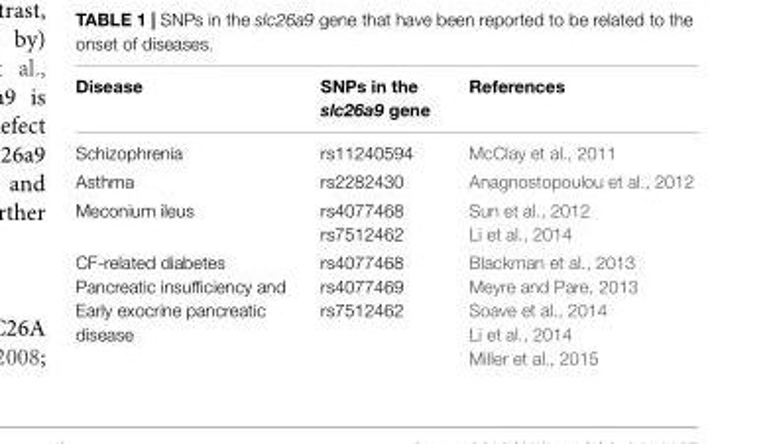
<table><thead><tr><td>Disease</td><td>SNPs in the slc26a9 gene</td><td>References</td></tr></thead><tbody><tr><td>Schizophrenia</td><td>rs11240594</td><td>McClay et al., 2011</td></tr><tr><td>Asthma</td><td>rs2282430</td><td>Anagnostopoulou et al., 2012</td></tr><tr><td>Meconium ileus</td><td>rs4077468 rs7512462</td><td>Sun et al., 2012 Li et al., 2014</td></tr><tr><td>CF-related diabetes Pancreatic insufficiency and Early exocrine pancreatic disease</td><td>rs4077468 rs4077469 rs7512462</td><td>Blackman et al., 2013 Meyre and Pare, 2013 Soave et al., 2014 Li et al., 2014 Miller et al., 2015</td></tr></tbody></table>